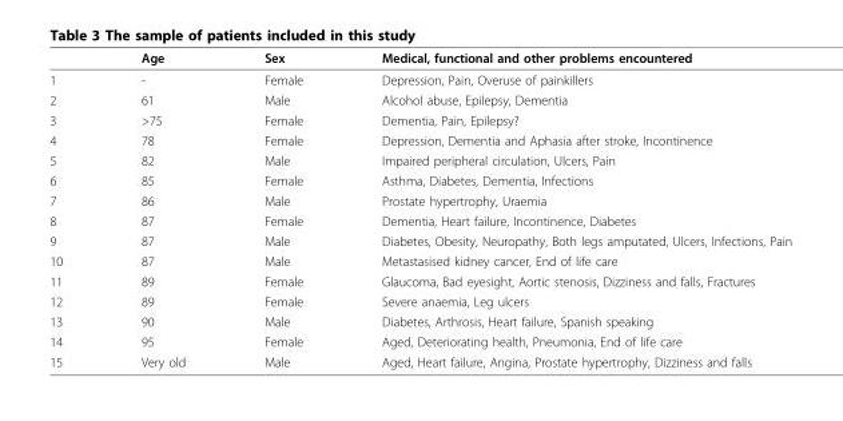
<table><thead><tr><td></td><td>Age</td><td>Sex</td><td>Medical, functional and other problems encountered</td></tr></thead><tbody><tr><td>1</td><td>-</td><td>Female</td><td>Depression, Pain, Overuse of painkillers</td></tr><tr><td>2</td><td>61</td><td>Male</td><td>Alcohol abuse, Epilepsy, Dementia</td></tr><tr><td>3</td><td>&gt;75</td><td>Female</td><td>Dementia, Pain, Epilepsy?</td></tr><tr><td>4</td><td>78</td><td>Female</td><td>Depression, Dementia and Aphasia after stroke, Incontinence</td></tr><tr><td>5</td><td>82</td><td>Male</td><td>Impaired peripheral circulation, Ulcers, Pain</td></tr><tr><td>6</td><td>85</td><td>Female</td><td>Asthma, Diabetes, Dementia, Infections</td></tr><tr><td>7</td><td>86</td><td>Male</td><td>Prostate hypertrophy, Uraemia</td></tr><tr><td>8</td><td>87</td><td>Female</td><td>Dementia, Heart failure, Incontinence, Diabetes</td></tr><tr><td>9</td><td>87</td><td>Male</td><td>Diabetes, Obesity, Neuropathy, Both legs amputated, Ulcers, Infections, Pain</td></tr><tr><td>10</td><td>87</td><td>Male</td><td>Metastasised kidney cancer, End of life care</td></tr><tr><td>11</td><td>89</td><td>Female</td><td>Glaucoma, Bad eyesight, Aortic stenosis, Dizziness and falls, Fractures</td></tr><tr><td>12</td><td>89</td><td>Female</td><td>Severe anaemia, Leg ulcers</td></tr><tr><td>13</td><td>90</td><td>Male</td><td>Diabetes, Arthrosis, Heart failure, Spanish speaking</td></tr><tr><td>14</td><td>95</td><td>Female</td><td>Aged, Deteriorating health, Pneumonia, End of life care</td></tr><tr><td>15</td><td>Very old</td><td>Male</td><td>Aged, Heart failure, Angina, Prostate hypertrophy, Dizziness and falls</td></tr></tbody></table>